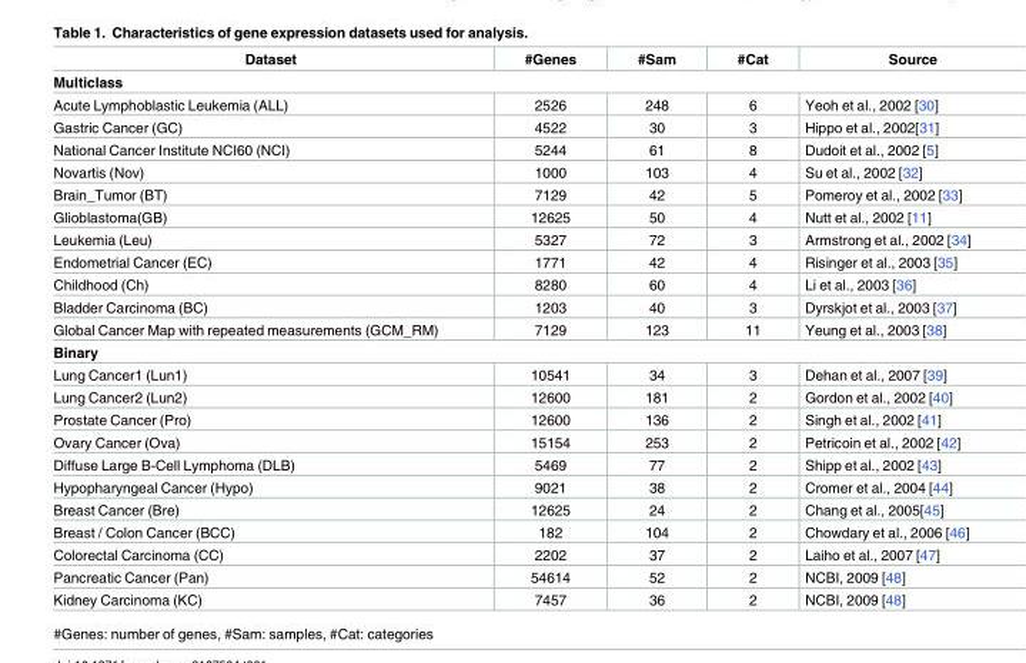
<table><thead><tr><td>Dataset</td><td>#Genes</td><td>#Sam</td><td>#Cat</td><td>Source</td></tr></thead><tbody><tr><td colspan="5">Multiclass</td></tr><tr><td>Acute Lymphoblastic Leukemia (ALL)</td><td>2526</td><td>248</td><td>6</td><td>Yeoh et al., 2002 [30]</td></tr><tr><td>Gastric Cancer (GC)</td><td>4522</td><td>30</td><td>3</td><td>Hippo et al., 2002[31]</td></tr><tr><td>National Cancer Institute NCI60 (NCI)</td><td>5244</td><td>61</td><td>8</td><td>Dudoit et al., 2002 [5]</td></tr><tr><td>Novartis (Nov)</td><td>1000</td><td>103</td><td>4</td><td>Su et al., 2002 [32]</td></tr><tr><td>Brain_Tumor (BT)</td><td>7129</td><td>42</td><td>5</td><td>Pomeroy et al., 2002 [33]</td></tr><tr><td>Glioblastoma(GB)</td><td>12625</td><td>50</td><td>4</td><td>Nutt et al., 2002 [11]</td></tr><tr><td>Leukemia (Leu)</td><td>5327</td><td>72</td><td>3</td><td>Armstrong et al., 2002 [34]</td></tr><tr><td>Endometrial Cancer (EC)</td><td>1771</td><td>42</td><td>4</td><td>Risinger et al., 2003 [35]</td></tr><tr><td>Childhood (Ch)</td><td>8280</td><td>60</td><td>4</td><td>Li et al., 2003 [36]</td></tr><tr><td>Bladder Carcinoma (BC)</td><td>1203</td><td>40</td><td>3</td><td>Dyrskjot et al., 2003 [37]</td></tr><tr><td>Global Cancer Map with repeated measurements (GCM_RM)</td><td>7129</td><td>123</td><td>11</td><td>Yeung et al., 2003 [38]</td></tr><tr><td colspan="5">Binary</td></tr><tr><td>Lung Cancer1 (Lun1)</td><td>10541</td><td>34</td><td>3</td><td>Dehan et al., 2007 [39]</td></tr><tr><td>Lung Cancer2 (Lun2)</td><td>12600</td><td>181</td><td>2</td><td>Gordon et al., 2002 [40]</td></tr><tr><td>Prostate Cancer (Pro)</td><td>12600</td><td>136</td><td>2</td><td>Singh et al., 2002 [41]</td></tr><tr><td>Ovary Cancer (Ova)</td><td>15154</td><td>253</td><td>2</td><td>Petricoin et al., 2002 [42]</td></tr><tr><td>Diffuse Large B-Cell Lymphoma (DLB)</td><td>5469</td><td>77</td><td>2</td><td>Shipp et al., 2002 [43]</td></tr><tr><td>Hypopharyngeal Cancer (Hypo)</td><td>9021</td><td>38</td><td>2</td><td>Cromer et al., 2004 [44]</td></tr><tr><td>Breast Cancer (Bre)</td><td>12625</td><td>24</td><td>2</td><td>Chang et al., 2005[45]</td></tr><tr><td>Breast / Colon Cancer (BCC)</td><td>182</td><td>104</td><td>2</td><td>Chowdary et al., 2006 [46]</td></tr><tr><td>Colorectal Carcinoma (CC)</td><td>2202</td><td>37</td><td>2</td><td>Laiho et al., 2007 [47]</td></tr><tr><td>Pancreatic Cancer (Pan)</td><td>54614</td><td>52</td><td>2</td><td>NCBI, 2009 [48]</td></tr><tr><td>Kidney Carcinoma (KC)</td><td>7457</td><td>36</td><td>2</td><td>NCBI, 2009 [48]</td></tr></tbody></table>